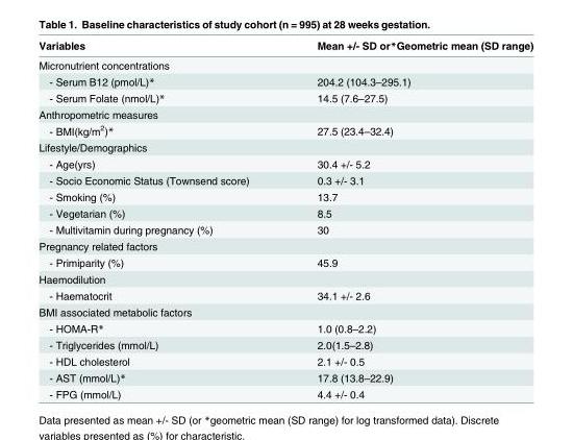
<table><thead><tr><td>Variables</td><td>Mean +/- SD or*Geometric mean (SD range)</td></tr></thead><tbody><tr><td colspan="2">Micronutrient concentrations</td></tr><tr><td>- Serum B12 (pmol/L)*</td><td>204.2 (104.3–295.1)</td></tr><tr><td>- Serum Folate (nmol/L)*</td><td>14.5 (7.6–27.5)</td></tr><tr><td colspan="2">Anthropometric measures</td></tr><tr><td>- BMI(kg/m<sup>2</sup>)*</td><td>27.5 (23.4–32.4)</td></tr><tr><td colspan="2">Lifestyle/Demographics</td></tr><tr><td>- Age(yrs)</td><td>30.4 +/- 5.2</td></tr><tr><td>- Socio Economic Status (Townsend score)</td><td>0.3 +/- 3.1</td></tr><tr><td>- Smoking (%)</td><td>13.7</td></tr><tr><td>- Vegetarian (%)</td><td>8.5</td></tr><tr><td>- Multivitamin during pregnancy (%)</td><td>30</td></tr><tr><td colspan="2">Pregnancy related factors</td></tr><tr><td>- Primiparity (%)</td><td>45.9</td></tr><tr><td colspan="2">Haemodilution</td></tr><tr><td>- Haematocrit</td><td>34.1 +/- 2.6</td></tr><tr><td colspan="2">BMI associated metabolic factors</td></tr><tr><td>- HOMA-R*</td><td>1.0 (0.8–2.2)</td></tr><tr><td>- Triglycerides (mmol/L)</td><td>2.0(1.5–2.8)</td></tr><tr><td>- HDL cholesterol</td><td>2.1 +/- 0.5</td></tr><tr><td>- AST (mmol/L)*</td><td>17.8 (13.8–22.9)</td></tr><tr><td>- FPG (mmol/L)</td><td>4.4 +/- 0.4</td></tr></tbody></table>